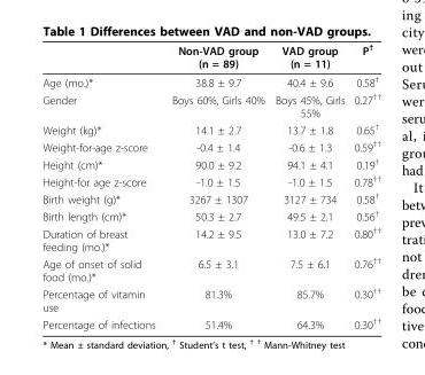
<table><thead><tr><td></td><td>Non-VAD group (n = 89)</td><td>VAD group (n = 11)</td><td>P<sup>†</sup></td></tr></thead><tbody><tr><td>Age (mo.)*</td><td>38.8 ± 9.7</td><td>40.4 ± 9.6</td><td>0.58<sup>†</sup></td></tr><tr><td>Gender</td><td>Boys 60%, Girls 40%</td><td>Boys 45%, Girls 55%</td><td>0.27<sup>††</sup></td></tr><tr><td>Weight (kg)*</td><td>14.1 ± 2.7</td><td>13.7 ± 1.8</td><td>0.65<sup>†</sup></td></tr><tr><td>Weight-for-age z-score</td><td>-0.4 ± 1.4</td><td>-0.6 ± 1.3</td><td>0.59<sup>††</sup></td></tr><tr><td>Height (cm)*</td><td>90.0 ± 9.2</td><td>94.1 ± 4.1</td><td>0.19<sup>†</sup></td></tr><tr><td>Height-for age z-score</td><td>-1.0 ± 1.5</td><td>-1.0 ± 1.5</td><td>0.78<sup>††</sup></td></tr><tr><td>Birth weight (g)*</td><td>3267 ± 1307</td><td>3127 ± 734</td><td>0.58<sup>†</sup></td></tr><tr><td>Birth length (cm)*</td><td>50.3 ± 2.7</td><td>49.5 ± 2.1</td><td>0.56<sup>†</sup></td></tr><tr><td>Duration of breast feeding (mo.)*</td><td>14.2 ± 9.5</td><td>13.0 ± 7.2</td><td>0.80<sup>††</sup></td></tr><tr><td>Age of onset of solid food (mo.)*</td><td>6.5 ± 3.1</td><td>7.5 ± 6.1</td><td>0.76<sup>††</sup></td></tr><tr><td>Percentage of vitamin use</td><td>81.3%</td><td>85.7%</td><td>0.30<sup>††</sup></td></tr><tr><td>Percentage of infections</td><td>51.4%</td><td>64.3%</td><td>0.30<sup>††</sup></td></tr></tbody></table>